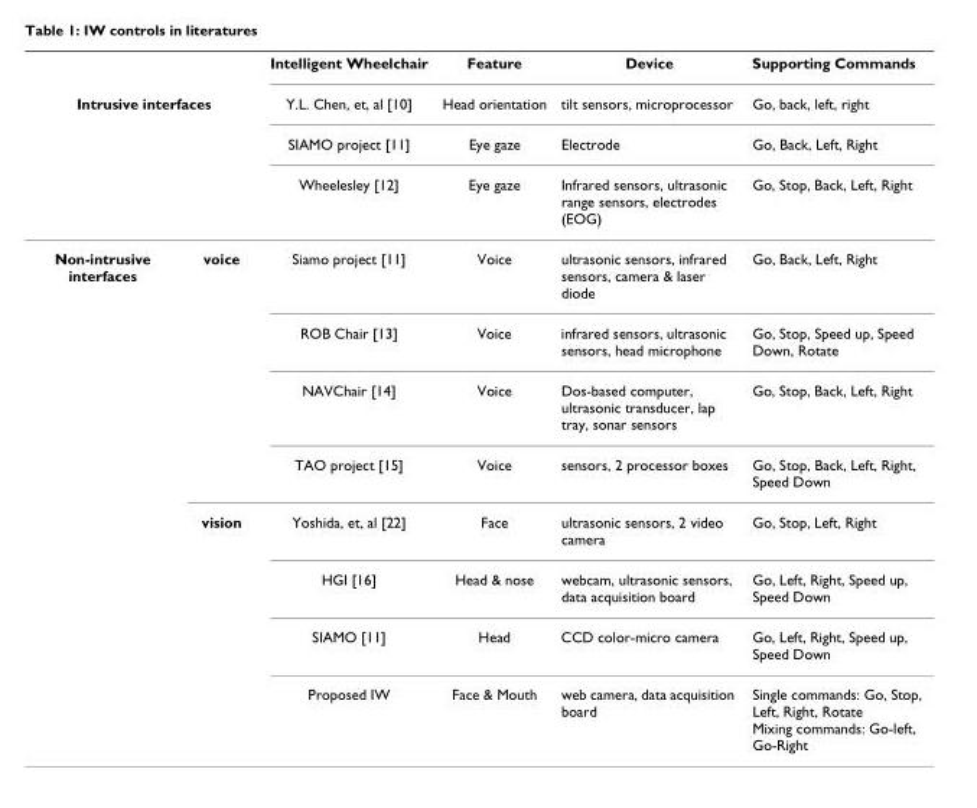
<table><thead><tr><td></td><td></td><td rowspan="4">Intelligent Wheelchair Y.L. Chen, et, al [10] SIAMO project [11] Wheelesley [12]</td><td rowspan="4">Feature Head orientation Eye gaze Eye gaze</td><td rowspan="4">Device tilt sensors, microprocessor Electrode Infrared sensors, ultrasonic range sensors, electrodes (EOG)</td><td rowspan="4">Supporting Commands Go, back, left, right Go, Back, Left, Right Go, Stop, Back, Left, Right</td></tr><tr><td colspan="2">Intrusive interfaces</td></tr><tr><td rowspan="2"></td><td rowspan="2"></td></tr><tr></tr></thead><tbody><tr><td rowspan="8">Non-intrusive interfaces</td><td>voice</td><td>Siamo project [11]</td><td>Voice</td><td>ultrasonic sensors, infrared sensors, camera &amp; laser diode</td><td>Go, Back, Left, Right</td></tr><tr><td></td><td>ROB Chair [13]</td><td>Voice</td><td>infrared sensors, ultrasonic sensors, head microphone</td><td>Go, Stop, Speed up, Speed Down, Rotate</td></tr><tr><td></td><td>NAVChair [14]</td><td>Voice</td><td>Dos-based computer, ultrasonic transducer, lap tray, sonar sensors</td><td>Go, Stop, Back, Left, Right</td></tr><tr><td></td><td>TAO project [15]</td><td>Voice</td><td>sensors, 2 processor boxes</td><td>Go, Stop, Back, Left, Right, Speed Down</td></tr><tr><td>vision</td><td>Yoshida, et, al [22]</td><td>Face</td><td>ultrasonic sensors, 2 video camera</td><td>Go, Stop, Left, Right</td></tr><tr><td></td><td>HGI [16]</td><td>Head &amp; nose</td><td>webcam, ultrasonic sensors, data acquisition board</td><td>Go, Left, Right, Speed up, Speed Down</td></tr><tr><td></td><td>SIAMO [11]</td><td>Head</td><td>CCD color-micro camera</td><td>Go, Left, Right, Speed up, Speed Down</td></tr><tr><td></td><td>Proposed IW</td><td>Face &amp; Mouth</td><td>web camera, data acquisition board</td><td>Single commands: Go, Stop, Left, Right, Rotate Mixing commands: Go-left, Go-Right</td></tr></tbody></table>